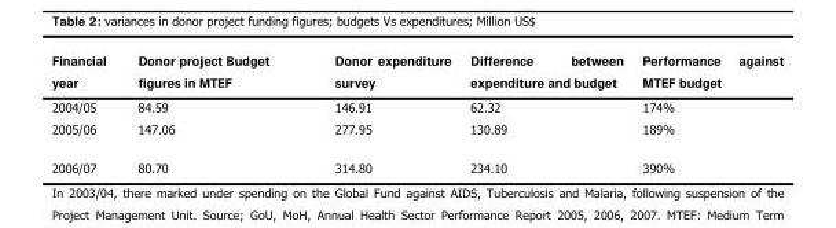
<table><thead><tr><td>Financial year</td><td>Donor project Budget figures in MTEF</td><td>Donor expenditure survey</td><td>Difference between expenditure and budget</td><td>Performance against MTEF budget</td></tr></thead><tbody><tr><td>2004/05</td><td>84.59</td><td>146.91</td><td>62.32</td><td>174%</td></tr><tr><td>2005/06</td><td>147.06</td><td>277.95</td><td>130.89</td><td>189%</td></tr><tr><td>2006/07</td><td>80.70</td><td>314.80</td><td>234.10</td><td>390%</td></tr></tbody></table>